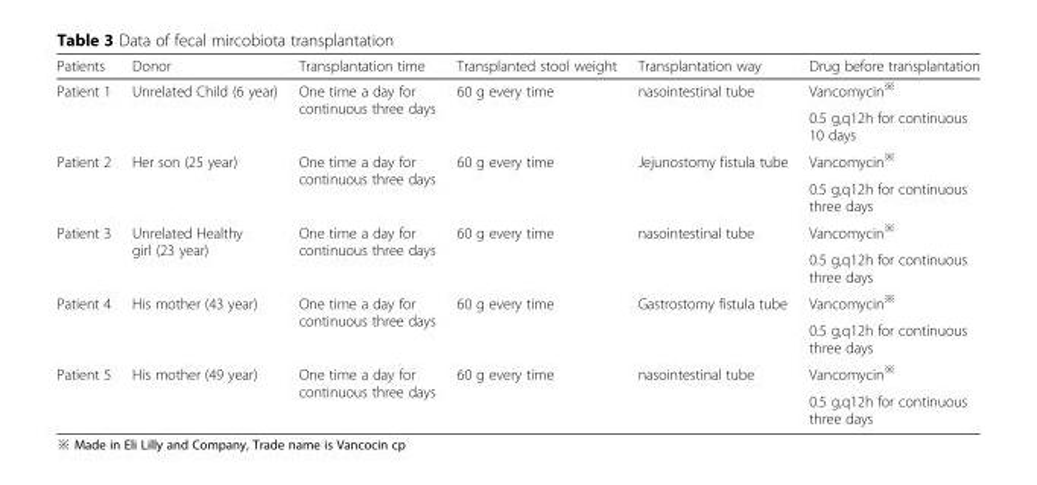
<table><thead><tr><td>Patients</td><td>Donor</td><td>Transplantation time</td><td>Transplanted stool weight</td><td>Transplantation way</td><td>Drug before transplantation</td></tr></thead><tbody><tr><td rowspan="2">Patient 1</td><td rowspan="2">Unrelated Child (6 year)</td><td rowspan="2">One time a day for continuous three days</td><td rowspan="2">60 g every time</td><td rowspan="2">nasointestinal tube</td><td>Vancomycin<sup>※</sup></td></tr><tr><td>0.5 g,q12h for continuous 10 days</td></tr><tr><td rowspan="2">Patient 2</td><td rowspan="2">Her son (25 year)</td><td rowspan="2">One time a day for continuous three days</td><td rowspan="2">60 g every time</td><td rowspan="2">Jejunostomy fistula tube</td><td>Vancomycin<sup>※</sup></td></tr><tr><td>0.5 g,q12h for continuous three days</td></tr><tr><td rowspan="2">Patient 3</td><td rowspan="2">Unrelated Healthy girl (23 year)</td><td rowspan="2">One time a day for continuous three days</td><td rowspan="2">60 g every time</td><td rowspan="2">nasointestinal tube</td><td>Vancomycin<sup>※</sup></td></tr><tr><td>0.5 g,q12h for continuous three days</td></tr><tr><td rowspan="2">Patient 4</td><td rowspan="2">His mother (43 year)</td><td rowspan="2">One time a day for continuous three days</td><td rowspan="2">60 g every time</td><td rowspan="2">Gastrostomy fistula tube</td><td>Vancomycin<sup>※</sup></td></tr><tr><td>0.5 g,q12h for continuous three days</td></tr><tr><td rowspan="2">Patient 5</td><td rowspan="2">His mother (49 year)</td><td rowspan="2">One time a day for continuous three days</td><td rowspan="2">60 g every time</td><td rowspan="2">nasointestinal tube</td><td>Vancomycin<sup>※</sup></td></tr><tr><td>0.5 g,q12h for continuous three days</td></tr></tbody></table>